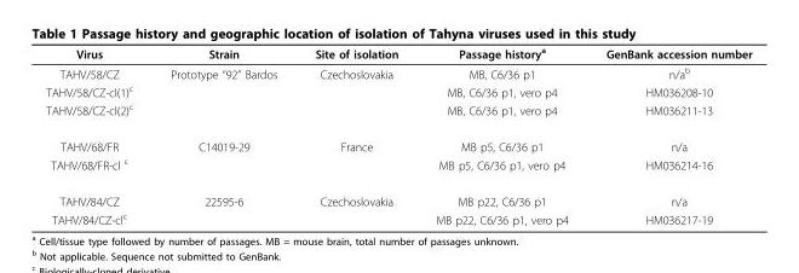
<table><thead><tr><td>Virus</td><td>Strain</td><td>Site of isolation</td><td>Passage history<sup>a</sup></td><td>GenBank accession number</td></tr></thead><tbody><tr><td>TAHV/58/CZ</td><td>Prototype “92” Bardos</td><td>Czechoslovakia</td><td>MB, C6/36 p1</td><td>n/a<sup>b</sup></td></tr><tr><td>TAHV/58/CZ-cl(1)<sup>c</sup></td><td></td><td></td><td>MB, C6/36 p1, vero p4</td><td>HM036208-10</td></tr><tr><td>TAHV/58/CZ-cl(2)<sup>c</sup></td><td></td><td></td><td>MB, C6/36 p1, vero p4</td><td>HM036211-13</td></tr><tr><td>TAHV/68/FR</td><td>C14019-29</td><td>France</td><td>MB p5, C6/36 p1</td><td>n/a</td></tr><tr><td>TAHV/68/FR-cl <sup>c</sup></td><td></td><td></td><td>MB p5, C6/36 p1, vero p4</td><td>HM036214-16</td></tr><tr><td>TAHV/84/CZ</td><td>22595-6</td><td>Czechoslovakia</td><td>MB p22, C6/36 p1</td><td>n/a</td></tr><tr><td>TAHV/84/CZ-cl<sup>c</sup></td><td></td><td></td><td>MB p22, C6/36 p1, vero p4</td><td>HM036217-19</td></tr></tbody></table>